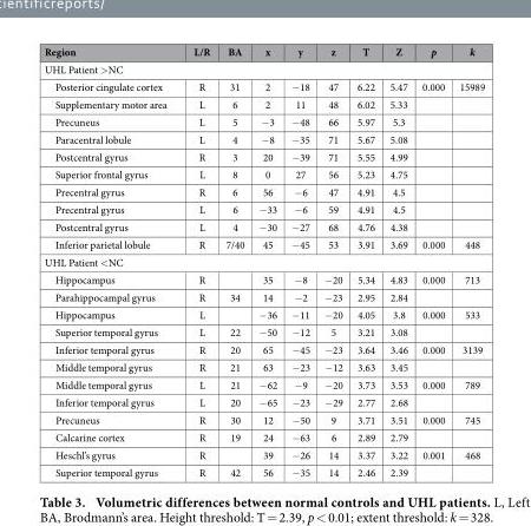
<table><thead><tr><td>Region</td><td>L/R</td><td>BA</td><td>x</td><td>y</td><td>z</td><td>T</td><td>Z</td><td>p</td><td>k</td></tr></thead><tbody><tr><td colspan="10">UHL Patient &gt; NC</td></tr><tr><td>Posterior cingulate cortex</td><td>R</td><td>31</td><td>2</td><td>− 18</td><td>47</td><td>6.22</td><td>5.47</td><td>0.000</td><td>15989</td></tr><tr><td>Supplementary motor area</td><td>L</td><td>6</td><td>2</td><td>11</td><td>48</td><td>6.02</td><td>5.33</td><td></td><td></td></tr><tr><td>Precuneus</td><td>L</td><td>5</td><td>− 3</td><td>− 48</td><td>66</td><td>5.97</td><td>5.3</td><td></td><td></td></tr><tr><td>Paracentral lobule</td><td>L</td><td>4</td><td>− 8</td><td>− 35</td><td>71</td><td>5.67</td><td>5.08</td><td></td><td></td></tr><tr><td>Postcentral gyrus</td><td>R</td><td>3</td><td>20</td><td>− 39</td><td>71</td><td>5.55</td><td>4.99</td><td></td><td></td></tr><tr><td>Superior frontal gyrus</td><td>L</td><td>8</td><td>0</td><td>27</td><td>56</td><td>5.23</td><td>4.75</td><td></td><td></td></tr><tr><td>Precentral gyrus</td><td>R</td><td>6</td><td>56</td><td>− 6</td><td>47</td><td>4.91</td><td>4.5</td><td></td><td></td></tr><tr><td>Precentral gyrus</td><td>L</td><td>6</td><td>− 33</td><td>− 6</td><td>59</td><td>4.91</td><td>4.5</td><td></td><td></td></tr><tr><td>Postcentral gyrus</td><td>L</td><td>4</td><td>− 30</td><td>− 27</td><td>68</td><td>4.76</td><td>4.38</td><td></td><td></td></tr><tr><td>Inferior parietal lobule</td><td>R</td><td>7/40</td><td>45</td><td>− 45</td><td>53</td><td>3.91</td><td>3.69</td><td>0.000</td><td>448</td></tr><tr><td colspan="10">UHL Patient &lt; NC</td></tr><tr><td>Hippocampus</td><td>R</td><td></td><td>35</td><td>− 8</td><td>− 20</td><td>5.34</td><td>4.83</td><td>0.000</td><td>713</td></tr><tr><td>Parahippocampal gyrus</td><td>R</td><td>34</td><td>14</td><td>− 2</td><td>− 23</td><td>2.95</td><td>2.84</td><td></td><td></td></tr><tr><td>Hippocampus</td><td>L</td><td></td><td>− 36</td><td>− 11</td><td>− 20</td><td>4.05</td><td>3.8</td><td>0.000</td><td>533</td></tr><tr><td>Superior temporal gyrus</td><td>L</td><td>22</td><td>− 50</td><td>− 12</td><td>5</td><td>3.21</td><td>3.08</td><td></td><td></td></tr><tr><td>Inferior temporal gyrus</td><td>R</td><td>20</td><td>65</td><td>− 45</td><td>− 23</td><td>3.64</td><td>3.46</td><td>0.000</td><td>3139</td></tr><tr><td>Middle temporal gyrus</td><td>R</td><td>21</td><td>63</td><td>− 23</td><td>− 12</td><td>3.63</td><td>3.45</td><td></td><td></td></tr><tr><td>Middle temporal gyrus</td><td>L</td><td>21</td><td>− 62</td><td>− 9</td><td>− 20</td><td>3.73</td><td>3.53</td><td>0.000</td><td>789</td></tr><tr><td>Inferior temporal gyrus</td><td>L</td><td>20</td><td>− 65</td><td>− 23</td><td>− 29</td><td>2.77</td><td>2.68</td><td></td><td></td></tr><tr><td>Precuneus</td><td>R</td><td>30</td><td>12</td><td>− 50</td><td>9</td><td>3.71</td><td>3.51</td><td>0.000</td><td>745</td></tr><tr><td>Calcarine cortex</td><td>R</td><td>19</td><td>24</td><td>− 63</td><td>6</td><td>2.89</td><td>2.79</td><td></td><td></td></tr><tr><td>Heschl’s gyrus</td><td>R</td><td></td><td>39</td><td>− 26</td><td>14</td><td>3.37</td><td>3.22</td><td>0.001</td><td>468</td></tr><tr><td>Superior temporal gyrus</td><td>R</td><td>42</td><td>56</td><td>− 35</td><td>14</td><td>2.46</td><td>2.39</td><td></td><td></td></tr></tbody></table>